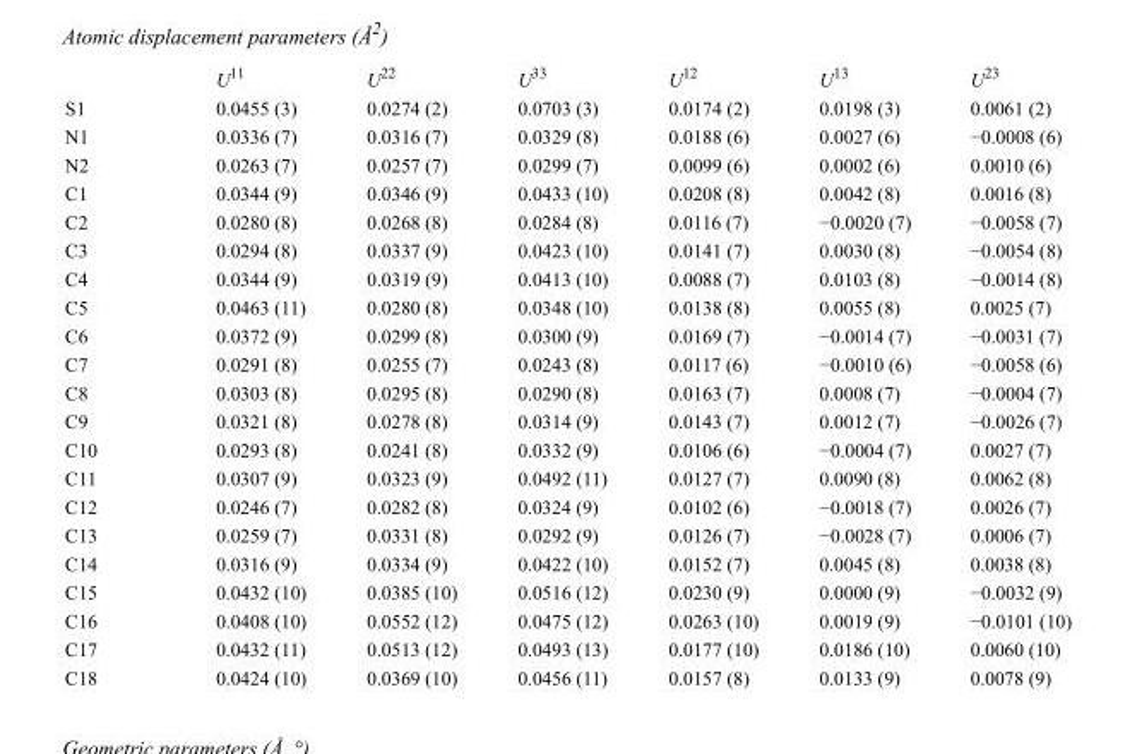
<table><thead><tr><td></td><td>U<sup>11</sup></td><td>U<sup>22</sup></td><td>U<sup>33</sup></td><td>U<sup>12</sup></td><td>U<sup>13</sup></td><td>U<sup>23</sup></td></tr></thead><tbody><tr><td>S1</td><td>0.0455 (3)</td><td>0.0274 (2)</td><td>0.0703 (3)</td><td>0.0174 (2)</td><td>0.0198 (3)</td><td>0.0061 (2)</td></tr><tr><td>N1</td><td>0.0336 (7)</td><td>0.0316 (7)</td><td>0.0329 (8)</td><td>0.0188 (6)</td><td>0.0027 (6)</td><td>−0.0008 (6)</td></tr><tr><td>N2</td><td>0.0263 (7)</td><td>0.0257 (7)</td><td>0.0299 (7)</td><td>0.0099 (6)</td><td>0.0002 (6)</td><td>0.0010 (6)</td></tr><tr><td>C1</td><td>0.0344 (9)</td><td>0.0346 (9)</td><td>0.0433 (10)</td><td>0.0208 (8)</td><td>0.0042 (8)</td><td>0.0016 (8)</td></tr><tr><td>C2</td><td>0.0280 (8)</td><td>0.0268 (8)</td><td>0.0284 (8)</td><td>0.0116 (7)</td><td>−0.0020 (7)</td><td>−0.0058 (7)</td></tr><tr><td>C3</td><td>0.0294 (8)</td><td>0.0337 (9)</td><td>0.0423 (10)</td><td>0.0141 (7)</td><td>0.0030 (8)</td><td>−0.0054 (8)</td></tr><tr><td>C4</td><td>0.0344 (9)</td><td>0.0319 (9)</td><td>0.0413 (10)</td><td>0.0088 (7)</td><td>0.0103 (8)</td><td>−0.0014 (8)</td></tr><tr><td>C5</td><td>0.0463 (11)</td><td>0.0280 (8)</td><td>0.0348 (10)</td><td>0.0138 (8)</td><td>0.0055 (8)</td><td>0.0025 (7)</td></tr><tr><td>C6</td><td>0.0372 (9)</td><td>0.0299 (8)</td><td>0.0300 (9)</td><td>0.0169 (7)</td><td>−0.0014 (7)</td><td>−0.0031 (7)</td></tr><tr><td>C7</td><td>0.0291 (8)</td><td>0.0255 (7)</td><td>0.0243 (8)</td><td>0.0117 (6)</td><td>−0.0010 (6)</td><td>−0.0058 (6)</td></tr><tr><td>C8</td><td>0.0303 (8)</td><td>0.0295 (8)</td><td>0.0290 (8)</td><td>0.0163 (7)</td><td>0.0008 (7)</td><td>−0.0004 (7)</td></tr><tr><td>C9</td><td>0.0321 (8)</td><td>0.0278 (8)</td><td>0.0314 (9)</td><td>0.0143 (7)</td><td>0.0012 (7)</td><td>−0.0026 (7)</td></tr><tr><td>C10</td><td>0.0293 (8)</td><td>0.0241 (8)</td><td>0.0332 (9)</td><td>0.0106 (6)</td><td>−0.0004 (7)</td><td>0.0027 (7)</td></tr><tr><td>C11</td><td>0.0307 (9)</td><td>0.0323 (9)</td><td>0.0492 (11)</td><td>0.0127 (7)</td><td>0.0090 (8)</td><td>0.0062 (8)</td></tr><tr><td>C12</td><td>0.0246 (7)</td><td>0.0282 (8)</td><td>0.0324 (9)</td><td>0.0102 (6)</td><td>−0.0018 (7)</td><td>0.0026 (7)</td></tr><tr><td>C13</td><td>0.0259 (7)</td><td>0.0331 (8)</td><td>0.0292 (9)</td><td>0.0126 (7)</td><td>−0.0028 (7)</td><td>0.0006 (7)</td></tr><tr><td>C14</td><td>0.0316 (9)</td><td>0.0334 (9)</td><td>0.0422 (10)</td><td>0.0152 (7)</td><td>0.0045 (8)</td><td>0.0038 (8)</td></tr><tr><td>C15</td><td>0.0432 (10)</td><td>0.0385 (10)</td><td>0.0516 (12)</td><td>0.0230 (9)</td><td>0.0000 (9)</td><td>−0.0032 (9)</td></tr><tr><td>C16</td><td>0.0408 (10)</td><td>0.0552 (12)</td><td>0.0475 (12)</td><td>0.0263 (10)</td><td>0.0019 (9)</td><td>−0.0101 (10)</td></tr><tr><td>C17</td><td>0.0432 (11)</td><td>0.0513 (12)</td><td>0.0493 (13)</td><td>0.0177 (10)</td><td>0.0186 (10)</td><td>0.0060 (10)</td></tr><tr><td>C18</td><td>0.0424 (10)</td><td>0.0369 (10)</td><td>0.0456 (11)</td><td>0.0157 (8)</td><td>0.0133 (9)</td><td>0.0078 (9)</td></tr></tbody></table>